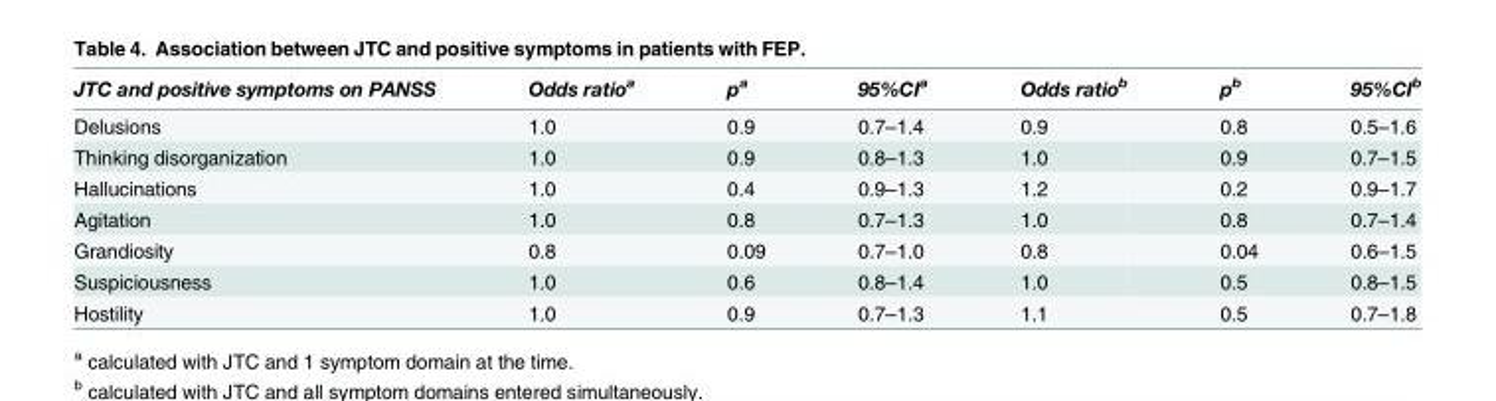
<table><thead><tr><td>JTC and positive symptoms on PANSS</td><td>Odds ratio<sup>a</sup></td><td>p<sup>a</sup></td><td>95%CI<sup>a</sup></td><td>Odds ratio<sup>b</sup></td><td>p<sup>b</sup></td><td>95%CI<sup>b</sup></td></tr></thead><tbody><tr><td>Delusions</td><td>1.0</td><td>0.9</td><td>0.7–1.4</td><td>0.9</td><td>0.8</td><td>0.5–1.6</td></tr><tr><td>Thinking disorganization</td><td>1.0</td><td>0.9</td><td>0.8–1.3</td><td>1.0</td><td>0.9</td><td>0.7–1.5</td></tr><tr><td>Hallucinations</td><td>1.0</td><td>0.4</td><td>0.9–1.3</td><td>1.2</td><td>0.2</td><td>0.9–1.7</td></tr><tr><td>Agitation</td><td>1.0</td><td>0.8</td><td>0.7–1.3</td><td>1.0</td><td>0.8</td><td>0.7–1.4</td></tr><tr><td>Grandiosity</td><td>0.8</td><td>0.09</td><td>0.7–1.0</td><td>0.8</td><td>0.04</td><td>0.6–1.5</td></tr><tr><td>Suspiciousness</td><td>1.0</td><td>0.6</td><td>0.8–1.4</td><td>1.0</td><td>0.5</td><td>0.8–1.5</td></tr><tr><td>Hostility</td><td>1.0</td><td>0.9</td><td>0.7–1.3</td><td>1.1</td><td>0.5</td><td>0.7–1.8</td></tr></tbody></table>